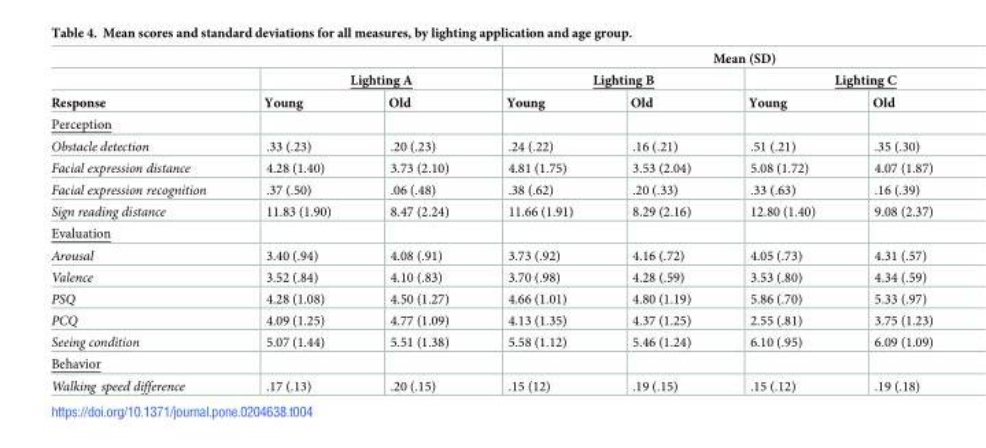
<table><thead><tr><td rowspan="3">Response</td><td></td><td></td><td colspan="4">Mean (SD)</td></tr><tr><td colspan="2">Lighting A</td><td colspan="2">Lighting B</td><td colspan="2">Lighting C</td></tr><tr><td>Young</td><td>Old</td><td>Young</td><td>Old</td><td>Young</td><td>Old</td></tr></thead><tbody><tr><td colspan="7">Perception</td></tr><tr><td>Obstacle detection</td><td>.33 (.23)</td><td>.20 (.23)</td><td>.24 (.22)</td><td>.16 (.21)</td><td>.51 (.21)</td><td>.35 (.30)</td></tr><tr><td>Facial expression distance</td><td>4.28 (1.40)</td><td>3.73 (2.10)</td><td>4.81 (1.75)</td><td>3.53 (2.04)</td><td>5.08 (1.72)</td><td>4.07 (1.87)</td></tr><tr><td>Facial expression recognition</td><td>.37 (.50)</td><td>.06 (.48)</td><td>.38 (.62)</td><td>.20 (.33)</td><td>.33 (.63)</td><td>.16 (.39)</td></tr><tr><td>Sign reading distance</td><td>11.83 (1.90)</td><td>8.47 (2.24)</td><td>11.66 (1.91)</td><td>8.29 (2.16)</td><td>12.80 (1.40)</td><td>9.08 (2.37)</td></tr><tr><td colspan="7">Evaluation</td></tr><tr><td>Arousal</td><td>3.40 (.94)</td><td>4.08 (.91)</td><td>3.73 (.92)</td><td>4.16 (.72)</td><td>4.05 (.73)</td><td>4.31 (.57)</td></tr><tr><td>Valence</td><td>3.52 (.84)</td><td>4.10 (.83)</td><td>3.70 (.98)</td><td>4.28 (.59)</td><td>3.53 (.80)</td><td>4.34 (.59)</td></tr><tr><td>PSQ</td><td>4.28 (1.08)</td><td>4.50 (1.27)</td><td>4.66 (1.01)</td><td>4.80 (1.19)</td><td>5.86 (.70)</td><td>5.33 (.97)</td></tr><tr><td>PCQ</td><td>4.09 (1.25)</td><td>4.77 (1.09)</td><td>4.13 (1.35)</td><td>4.37 (1.25)</td><td>2.55 (.81)</td><td>3.75 (1.23)</td></tr><tr><td>Seeing condition</td><td>5.07 (1.44)</td><td>5.51 (1.38)</td><td>5.58 (1.12)</td><td>5.46 (1.24)</td><td>6.10 (.95)</td><td>6.09 (1.09)</td></tr><tr><td colspan="7">Behavior</td></tr><tr><td>Walking speed difference</td><td>.17 (.13)</td><td>.20 (.15)</td><td>.15 (12)</td><td>.19 (.15)</td><td>.15 (.12)</td><td>.19 (.18)</td></tr></tbody></table>